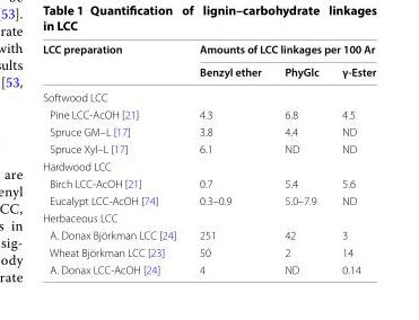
<table><thead><tr><td rowspan="2">LCC preparation</td><td colspan="3">Amounts of LCC linkages per 100 Ar</td></tr><tr><td>Benzyl ether</td><td>PhyGlc</td><td>γ-Ester</td></tr></thead><tbody><tr><td colspan="4">Softwood LCC</td></tr><tr><td>Pine LCC-AcOH [21]</td><td>4.3</td><td>6.8</td><td>4.5</td></tr><tr><td>Spruce GM–L [17]</td><td>3.8</td><td>4.4</td><td>ND</td></tr><tr><td>Spruce Xyl–L [17]</td><td>6.1</td><td>ND</td><td>ND</td></tr><tr><td colspan="4">Hardwood LCC</td></tr><tr><td>Birch LCC-AcOH [21]</td><td>0.7</td><td>5.4</td><td>5.6</td></tr><tr><td>Eucalypt LCC-AcOH [74]</td><td>0.3–0.9</td><td>5.0–7.9</td><td>ND</td></tr><tr><td colspan="4">Herbaceous LCC</td></tr><tr><td>A. Donax Björkman LCC [24]</td><td>251</td><td>42</td><td>3</td></tr><tr><td>Wheat Björkman LCC [23]</td><td>50</td><td>2</td><td>14</td></tr><tr><td>A. Donax LCC-AcOH [24]</td><td>4</td><td>ND</td><td>0.14</td></tr></tbody></table>